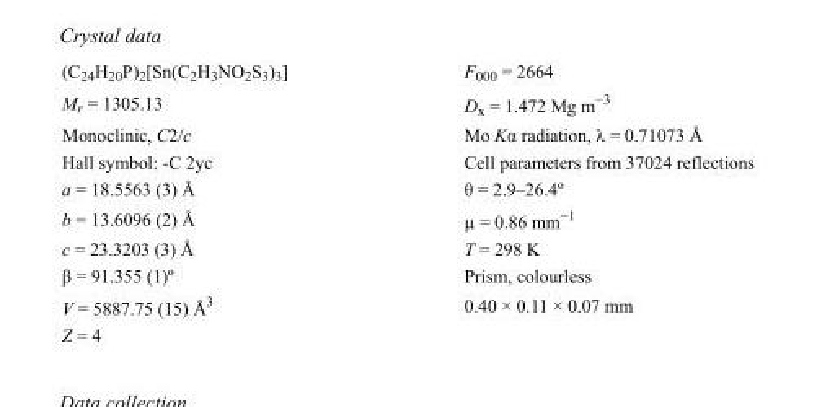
<table><tbody><tr><td>(C<sub>24</sub>H<sub>20</sub>P)<sub>2</sub>[Sn(C<sub>2</sub>H<sub>3</sub>NO<sub>2</sub>S<sub>3</sub>)<sub>3</sub>]</td><td>F000 = 2664</td></tr><tr><td>M<sub>r</sub> = 1305.13</td><td>D<sub>x</sub> = 1.472 Mg m<sup>−3</sup></td></tr><tr><td>Monoclinic, C2/c</td><td>Mo Kα radiation, λ = 0.71073 Å</td></tr><tr><td>Hall symbol: -C 2yc</td><td>Cell parameters from 37024 reflections</td></tr><tr><td>a = 18.5563 (3) Å</td><td>θ = 2.9–26.4º</td></tr><tr><td>b = 13.6096 (2) Å</td><td>µ = 0.86 mm<sup>−1</sup></td></tr><tr><td>c = 23.3203 (3) Å</td><td>T = 298 K</td></tr><tr><td>β = 91.355 (1)º</td><td>Prism, colourless</td></tr><tr><td>V = 5887.75 (15) Å<sup>3</sup></td><td>0.40 × 0.11 × 0.07 mm</td></tr><tr><td>Z = 4</td><td></td></tr></tbody></table>